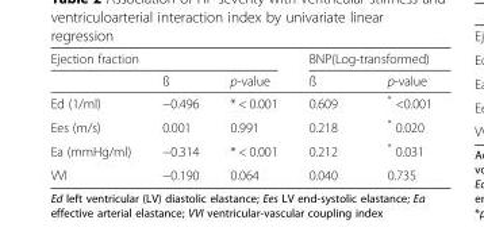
<table><thead><tr><td colspan="3">Ejection fraction</td><td colspan="2">BNP(Log-transformed)</td></tr><tr><td></td><td>ß</td><td>p-value</td><td>ß</td><td>p-value</td></tr></thead><tbody><tr><td>Ed (1/ml)</td><td>−0.496</td><td>* &lt; 0.001</td><td>0.609</td><td>* &lt;0.001</td></tr><tr><td>Ees (m/s)</td><td>0.001</td><td>0.991</td><td>0.218</td><td>* 0.020</td></tr><tr><td>Ea (mmHg/ml)</td><td>−0.314</td><td>* &lt; 0.001</td><td>0.212</td><td>* 0.031</td></tr><tr><td>VVI</td><td>−0.190</td><td>0.064</td><td>0.040</td><td>0.735</td></tr></tbody></table>